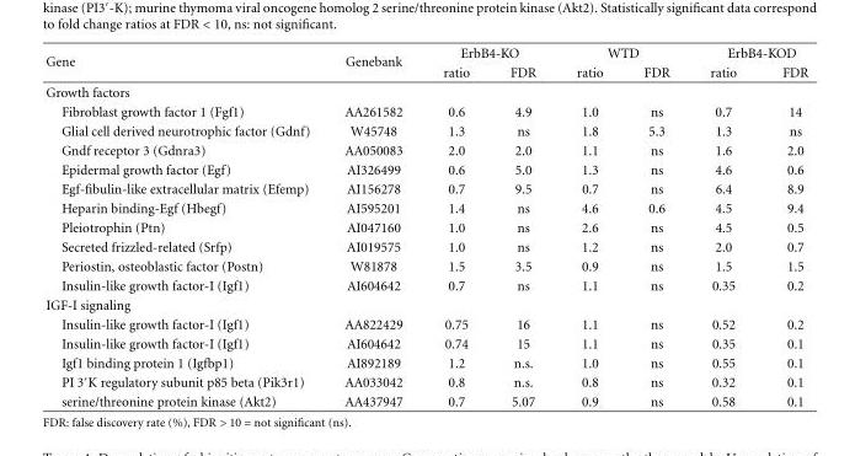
<table><thead><tr><td rowspan="2">Gene</td><td rowspan="2">Genebank</td><td colspan="2">ErbB4-KO</td><td colspan="2">WTD</td><td colspan="2">ErbB4-KOD</td></tr><tr><td>ratio</td><td>FDR</td><td>ratio</td><td>FDR</td><td>ratio</td><td>FDR</td></tr></thead><tbody><tr><td colspan="8">Growth factors</td></tr><tr><td>Fibroblast growth factor 1 (Fgf1)</td><td>AA261582</td><td>0.6</td><td>4.9</td><td>1.0</td><td>ns</td><td>0.7</td><td>14</td></tr><tr><td>Glial cell derived neurotrophic factor (Gdnf)</td><td>W45748</td><td>1.3</td><td>ns</td><td>1.8</td><td>5.3</td><td>1.3</td><td>ns</td></tr><tr><td>Gndf receptor 3 (Gdnra3)</td><td>AA050083</td><td>2.0</td><td>2.0</td><td>1.1</td><td>ns</td><td>1.6</td><td>2.0</td></tr><tr><td>Epidermal growth factor (Egf)</td><td>AI326499</td><td>0.6</td><td>5.0</td><td>1.3</td><td>ns</td><td>4.6</td><td>0.6</td></tr><tr><td>Egf-fibulin-like extracellular matrix (Efemp)</td><td>AI156278</td><td>0.7</td><td>9.5</td><td>0.7</td><td>ns</td><td>6.4</td><td>8.9</td></tr><tr><td>Heparin binding-Egf (Hbegf)</td><td>AI595201</td><td>1.4</td><td>ns</td><td>4.6</td><td>0.6</td><td>4.5</td><td>9.4</td></tr><tr><td>Pleiotrophin (Ptn)</td><td>AI047160</td><td>1.0</td><td>ns</td><td>2.6</td><td>ns</td><td>4.5</td><td>0.5</td></tr><tr><td>Secreted frizzled-related (Srfp)</td><td>AI019575</td><td>1.0</td><td>ns</td><td>1.2</td><td>ns</td><td>2.0</td><td>0.7</td></tr><tr><td>Periostin, osteoblastic factor (Postn)</td><td>W81878</td><td>1.5</td><td>3.5</td><td>0.9</td><td>ns</td><td>1.5</td><td>1.5</td></tr><tr><td>Insulin-like growth factor-I (Igf1)</td><td>AI604642</td><td>0.7</td><td>ns</td><td>1.1</td><td>ns</td><td>0.35</td><td>0.2</td></tr><tr><td colspan="8">IGF-I signaling</td></tr><tr><td>Insulin-like growth factor-I (Igf1)</td><td>AA822429</td><td>0.75</td><td>16</td><td>1.1</td><td>ns</td><td>0.52</td><td>0.2</td></tr><tr><td>Insulin-like growth factor-I (Igf1)</td><td>AI604642</td><td>0.74</td><td>15</td><td>1.1</td><td>ns</td><td>0.35</td><td>0.1</td></tr><tr><td>Igf1 binding protein 1 (Igfbp1)</td><td>AI892189</td><td>1.2</td><td>n.s.</td><td>1.0</td><td>ns</td><td>0.55</td><td>0.1</td></tr><tr><td>PI 3′K regulatory subunit p85 beta (Pik3r1)</td><td>AA033042</td><td>0.8</td><td>n.s.</td><td>0.8</td><td>ns</td><td>0.32</td><td>0.1</td></tr><tr><td>serine/threonine protein kinase (Akt2)</td><td>AA437947</td><td>0.7</td><td>5.07</td><td>0.9</td><td>ns</td><td>0.58</td><td>0.1</td></tr></tbody></table>